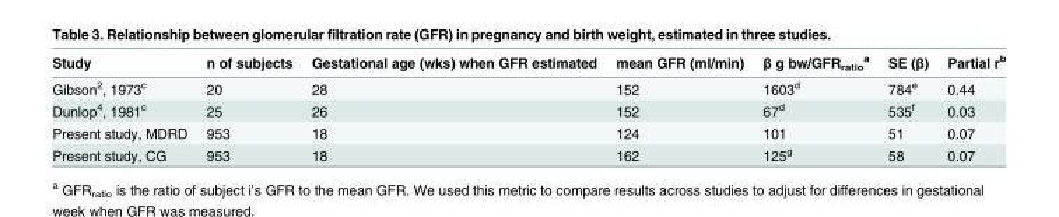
<table><thead><tr><td>Study</td><td>n of subjects</td><td>Gestational age (wks) when GFR estimated</td><td>mean GFR (ml/min)</td><td>β g bw/GFR<sub>ratio</sub> <sup>a</sup></td><td>SE (β)</td><td>Partial r<sup>b</sup></td></tr></thead><tbody><tr><td>Gibson<sup>2</sup>, 1973<sup>c</sup></td><td>20</td><td>28</td><td>152</td><td>1603<sup>d</sup></td><td>784<sup>e</sup></td><td>0.44</td></tr><tr><td>Dunlop<sup>4</sup>, 1981<sup>c</sup></td><td>25</td><td>26</td><td>152</td><td>67<sup>d</sup></td><td>535<sup>f</sup></td><td>0.03</td></tr><tr><td>Present study, MDRD</td><td>953</td><td>18</td><td>124</td><td>101</td><td>51</td><td>0.07</td></tr><tr><td>Present study, CG</td><td>953</td><td>18</td><td>162</td><td>125<sup>g</sup></td><td>58</td><td>0.07</td></tr></tbody></table>